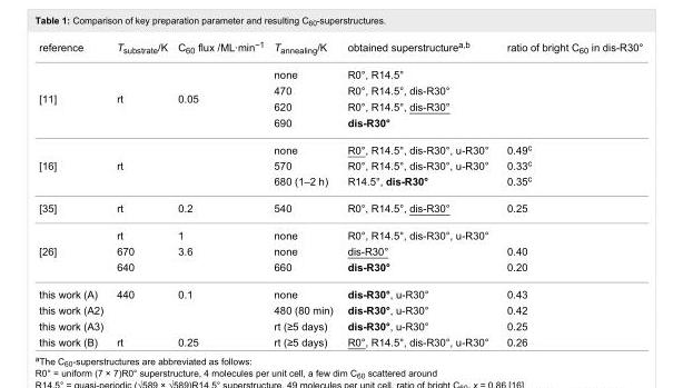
<table><tbody><tr><td>reference</td><td>T<sub>substrate</sub>/K</td><td>C<sub>60</sub> flux /ML·min<sup>−1</sup></td><td>T<sub>annealing</sub>/K</td><td>obtained superstructure<sup>a,b</sup></td><td>ratio of bright C<sub>60</sub> in dis-R30°</td></tr><tr><td rowspan="4">[11]</td><td rowspan="4">rt</td><td rowspan="4">0.05</td><td>none</td><td>R0°, R14.5°</td><td></td></tr><tr><td>470</td><td>R0°, R14.5°, dis-R30°</td><td></td></tr><tr><td>620</td><td>R0°, R14.5°, dis-R30°</td><td></td></tr><tr><td>690</td><td>dis-R30°</td><td></td></tr><tr><td rowspan="3">[16]</td><td rowspan="3">rt</td><td rowspan="3"></td><td>none</td><td>R0°, R14.5°, dis-R30°, u-R30°</td><td>0.49<sup>c</sup></td></tr><tr><td>570</td><td>R0°, R14.5°, dis-R30°, u-R30°</td><td>0.33<sup>c</sup></td></tr><tr><td>680 (1–2 h)</td><td>R14.5°, dis-R30°</td><td>0.35<sup>c</sup></td></tr><tr><td>[35]</td><td>rt</td><td>0.2</td><td>540</td><td>R0°, R14.5°, dis-R30°</td><td>0.25</td></tr><tr><td rowspan="3">[26]</td><td>rt</td><td>1</td><td>none</td><td>R0°, R14.5°, dis-R30°, u-R30°</td><td></td></tr><tr><td>670</td><td>3.6</td><td>none</td><td>dis-R30°</td><td>0.40</td></tr><tr><td>640</td><td></td><td>660</td><td>dis-R30°</td><td>0.20</td></tr><tr><td>this work (A)</td><td>440</td><td>0.1</td><td>none</td><td>dis-R30°, u-R30°</td><td>0.43</td></tr><tr><td>this work (A2)</td><td></td><td></td><td>480 (80 min)</td><td>dis-R30°, u-R30°</td><td>0.42</td></tr><tr><td>this work (A3)</td><td></td><td></td><td>rt (≥5 days)</td><td>dis-R30°, u-R30°</td><td>0.25</td></tr><tr><td>this work (B)</td><td>rt</td><td>0.25</td><td>rt (≥5 days)</td><td>R0°, R14.5°, dis-R30°, u-R30°</td><td>0.26</td></tr></tbody></table>